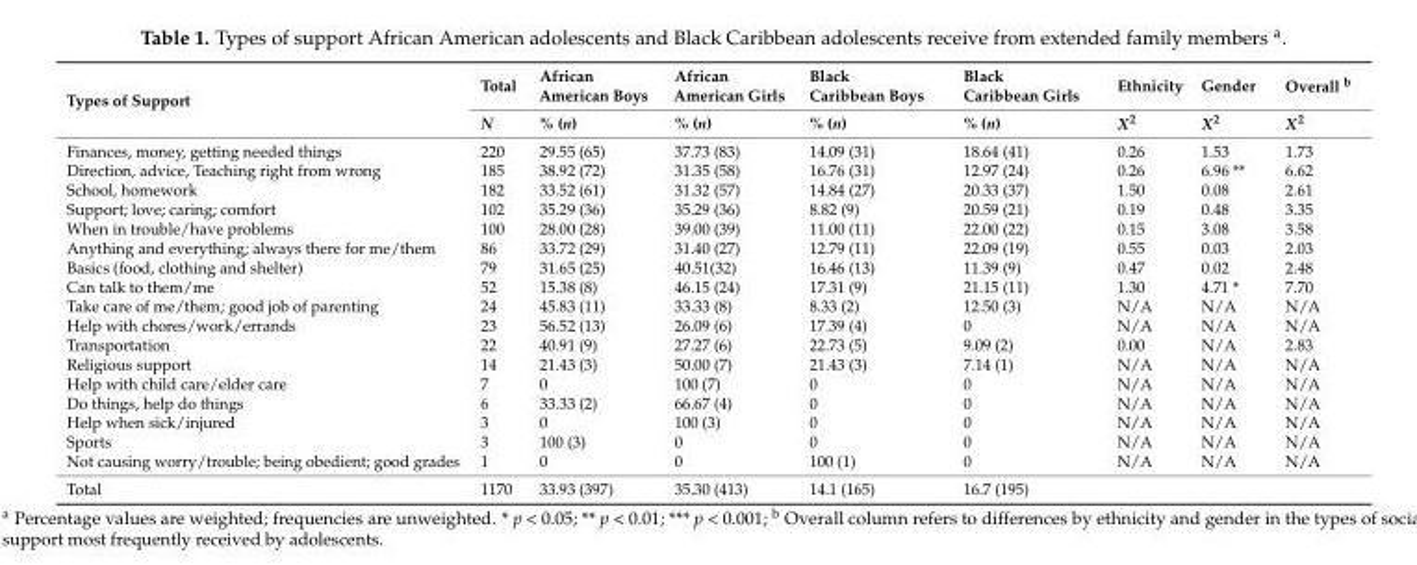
<table><thead><tr><td rowspan="2">Types of Support</td><td rowspan="2">Total N</td><td rowspan="2">African American Boys % (n)</td><td rowspan="2">African American Girls % (n)</td><td rowspan="2">Black Caribbean Boys % (n)</td><td rowspan="2">Black Caribbean Girls % (n)</td><td rowspan="2">Ethnicity X<sup>2</sup></td><td rowspan="2">Gender X<sup>2</sup></td><td rowspan="2">Overall <sup>b</sup> X<sup>2</sup></td></tr><tr></tr></thead><tbody><tr><td>Finances, money, getting needed things</td><td>220</td><td>29.55 (65)</td><td>37.73 (83)</td><td>14.09 (31)</td><td>18.64 (41)</td><td>0.26</td><td>1.53</td><td>1.73</td></tr><tr><td>Direction, advice, Teaching right from wrong</td><td>185</td><td>38.92 (72)</td><td>31.35 (58)</td><td>16.76 (31)</td><td>12.97 (24)</td><td>0.26</td><td>6.96 **</td><td>6.62</td></tr><tr><td>School, homework</td><td>182</td><td>33.52 (61)</td><td>31.32 (57)</td><td>14.84 (27)</td><td>20.33 (37)</td><td>1.50</td><td>0.08</td><td>2.61</td></tr><tr><td>Support; love; caring; comfort</td><td>102</td><td>35.29 (36)</td><td>35.29 (36)</td><td>8.82 (9)</td><td>20.59 (21)</td><td>0.19</td><td>0.48</td><td>3.35</td></tr><tr><td>When in trouble/have problems</td><td>100</td><td>28.00 (28)</td><td>39.00 (39)</td><td>11.00 (11)</td><td>22.00 (22)</td><td>0.15</td><td>3.08</td><td>3.58</td></tr><tr><td>Anything and everything; always there for me/them</td><td>86</td><td>33.72 (29)</td><td>31.40 (27)</td><td>12.79 (11)</td><td>22.09 (19)</td><td>0.55</td><td>0.03</td><td>2.03</td></tr><tr><td>Basics (food, clothing and shelter)</td><td>79</td><td>31.65 (25)</td><td>40.51(32)</td><td>16.46 (13)</td><td>11.39 (9)</td><td>0.47</td><td>0.02</td><td>2.48</td></tr><tr><td>Can talk to them/me</td><td>52</td><td>15.38 (8)</td><td>46.15 (24)</td><td>17.31 (9)</td><td>21.15 (11)</td><td>1.30</td><td>4.71 *</td><td>7.70</td></tr><tr><td>Take care of me/them; good job of parenting</td><td>24</td><td>45.83 (11)</td><td>33.33 (8)</td><td>8.33 (2)</td><td>12.50 (3)</td><td>N/A</td><td>N/A</td><td>N/A</td></tr><tr><td>Help with chores/work/errands</td><td>23</td><td>56.52 (13)</td><td>26.09 (6)</td><td>17.39 (4)</td><td>0</td><td>N/A</td><td>N/A</td><td>N/A</td></tr><tr><td>Transportation</td><td>22</td><td>40.91 (9)</td><td>27.27 (6)</td><td>22.73 (5)</td><td>9.09 (2)</td><td>0.00</td><td>N/A</td><td>2.83</td></tr><tr><td>Religious support</td><td>14</td><td>21.43 (3)</td><td>50.00 (7)</td><td>21.43 (3)</td><td>7.14 (1)</td><td>N/A</td><td>N/A</td><td>N/A</td></tr><tr><td>Help with child care/elder care</td><td>7</td><td>0</td><td>100 (7)</td><td>0</td><td>0</td><td>N/A</td><td>N/A</td><td>N/A</td></tr><tr><td>Do things, help do things</td><td>6</td><td>33.33 (2)</td><td>66.67 (4)</td><td>0</td><td>0</td><td>N/A</td><td>N/A</td><td>N/A</td></tr><tr><td>Help when sick/injured</td><td>3</td><td>0</td><td>100 (3)</td><td>0</td><td>0</td><td>N/A</td><td>N/A</td><td>N/A</td></tr><tr><td>Sports</td><td>3</td><td>100 (3)</td><td>0</td><td>0</td><td>0</td><td>N/A</td><td>N/A</td><td>N/A</td></tr><tr><td>Not causing worry/trouble; being obedient; good grades</td><td>1</td><td>0</td><td>0</td><td>100 (1)</td><td>0</td><td>N/A</td><td>N/A</td><td>N/A</td></tr><tr><td>Total</td><td>1170</td><td>33.93 (397)</td><td>35.30 (413)</td><td>14.1 (165)</td><td>16.7 (195)</td><td></td><td></td><td></td></tr></tbody></table>